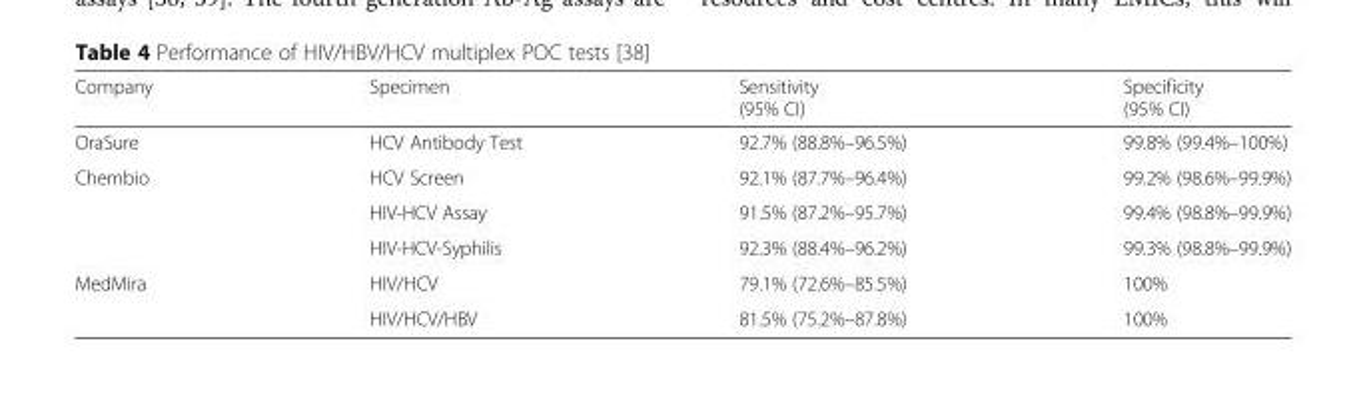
<table><thead><tr><td>Company</td><td>Specimen</td><td>Sensitivity (95% CI)</td><td>Specificity (95% CI)</td></tr></thead><tbody><tr><td>OraSure</td><td>HCV Antibody Test</td><td>92.7% (88.8%–96.5%)</td><td>99.8% (99.4%–100%)</td></tr><tr><td rowspan="3">Chembio</td><td>HCV Screen</td><td>92.1% (87.7%–96.4%)</td><td>99.2% (98.6%–99.9%)</td></tr><tr><td>HIV-HCV Assay</td><td>91.5% (87.2%–95.7%)</td><td>99.4% (98.8%–99.9%)</td></tr><tr><td>HIV-HCV-Syphilis</td><td>92.3% (88.4%–96.2%)</td><td>99.3% (98.8%–99.9%)</td></tr><tr><td rowspan="2">MedMira</td><td>HIV/HCV</td><td>79.1% (72.6%–85.5%)</td><td>100%</td></tr><tr><td>HIV/HCV/HBV</td><td>81.5% (75.2%–87.8%)</td><td>100%</td></tr></tbody></table>